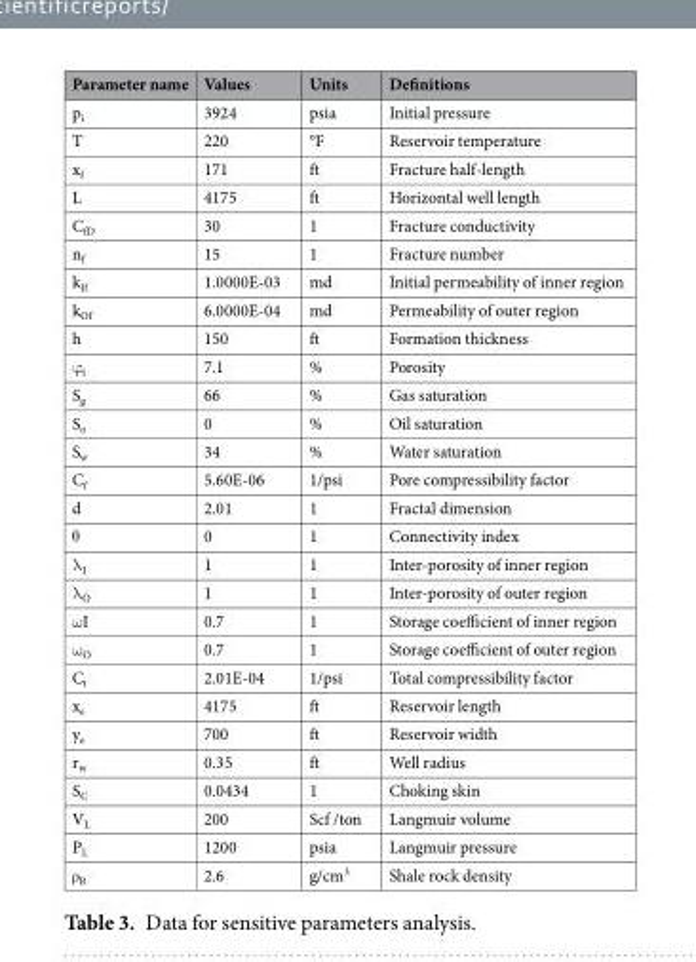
<table><thead><tr><td>Parameter name</td><td>Values</td><td>Units</td><td>Definitions</td></tr></thead><tbody><tr><td>p<sub>i</sub></td><td>3924</td><td>psia</td><td>Initial pressure</td></tr><tr><td>T</td><td>220</td><td>°F</td><td>Reservoir temperature</td></tr><tr><td>x<sub>f</sub></td><td>171</td><td>ft</td><td>Fracture half-length</td></tr><tr><td>L</td><td>4175</td><td>ft</td><td>Horizontal well length</td></tr><tr><td>C<sub>fD</sub></td><td>30</td><td>1</td><td>Fracture conductivity</td></tr><tr><td>n<sub>f</sub></td><td>15</td><td>1</td><td>Fracture number</td></tr><tr><td>k<sub>If</sub></td><td>1.0000E-03</td><td>md</td><td>Initial permeability of inner region</td></tr><tr><td>k<sub>Of</sub></td><td>6.0000E-04</td><td>md</td><td>Permeability of outer region</td></tr><tr><td>h</td><td>150</td><td>ft</td><td>Formation thickness</td></tr><tr><td>ϕ<sub>t</sub></td><td>7.1</td><td>%</td><td>Porosity</td></tr><tr><td>S<sub>g</sub></td><td>66</td><td>%</td><td>Gas saturation</td></tr><tr><td>S<sub>o</sub></td><td>0</td><td>%</td><td>Oil saturation</td></tr><tr><td>S<sub>w</sub></td><td>34</td><td>%</td><td>Water saturation</td></tr><tr><td>C<sub>f</sub></td><td>5.60E-06</td><td>1/psi</td><td>Pore compressibility factor</td></tr><tr><td>d</td><td>2.01</td><td>1</td><td>Fractal dimension</td></tr><tr><td>θ</td><td>0</td><td>1</td><td>Connectivity index</td></tr><tr><td>λ<sub>I</sub></td><td>1</td><td>1</td><td>Inter-porosity of inner region</td></tr><tr><td>λ<sub>O</sub></td><td>1</td><td>1</td><td>Inter-porosity of outer region</td></tr><tr><td>ωI</td><td>0.7</td><td>1</td><td>Storage coefficient of inner region</td></tr><tr><td>ω<sub>O</sub></td><td>0.7</td><td>1</td><td>Storage coefficient of outer region</td></tr><tr><td>C<sub>t</sub></td><td>2.01E-04</td><td>1/psi</td><td>Total compressibility factor</td></tr><tr><td>x<sub>e</sub></td><td>4175</td><td>ft</td><td>Reservoir length</td></tr><tr><td>y<sub>e</sub></td><td>700</td><td>ft</td><td>Reservoir width</td></tr><tr><td>r<sub>w</sub></td><td>0.35</td><td>ft</td><td>Well radius</td></tr><tr><td>S<sub>C</sub></td><td>0.0434</td><td>1</td><td>Choking skin</td></tr><tr><td>V<sub>L</sub></td><td>200</td><td>Scf /ton</td><td>Langmuir volume</td></tr><tr><td>P<sub>L</sub></td><td>1200</td><td>psia</td><td>Langmuir pressure</td></tr><tr><td>ρ<sub>B</sub></td><td>2.6</td><td>g/cm<sup>3</sup></td><td>Shale rock density</td></tr></tbody></table>